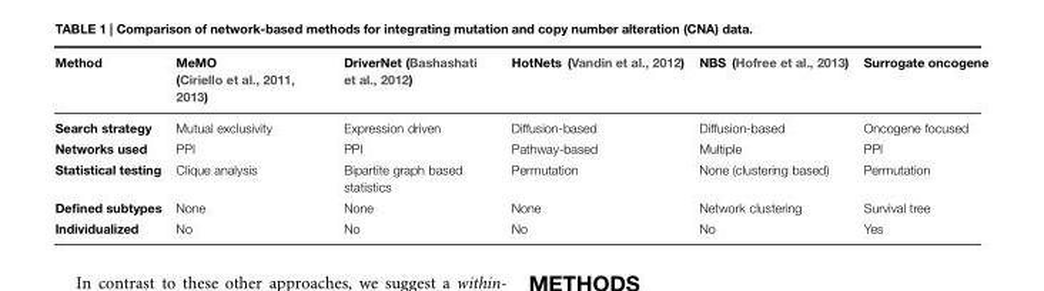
<table><thead><tr><td>Method</td><td>MeMO (Ciriello et al., 2011, 2013)</td><td>DriverNet (Bashashati et al., 2012)</td><td>HotNets (Vandin et al., 2012)</td><td>NBS (Hofree et al., 2013)</td><td>Surrogate oncogene</td></tr></thead><tbody><tr><td>Search strategy</td><td>Mutual exclusivity</td><td>Expression driven</td><td>Diffusion-based</td><td>Diffusion-based</td><td>Oncogene focused</td></tr><tr><td>Networks used</td><td>PPI</td><td>PPI</td><td>Pathway-based</td><td>Multiple</td><td>PPI</td></tr><tr><td>Statistical testing</td><td>Clique analysis</td><td>Bipartite graph based statistics</td><td>Permutation</td><td>None (clustering based)</td><td>Permutation</td></tr><tr><td>Defined subtypes</td><td>None</td><td>None</td><td>None</td><td>Network clustering</td><td>Survival tree</td></tr><tr><td>Individualized</td><td>No</td><td>No</td><td>No</td><td>No</td><td>Yes</td></tr></tbody></table>